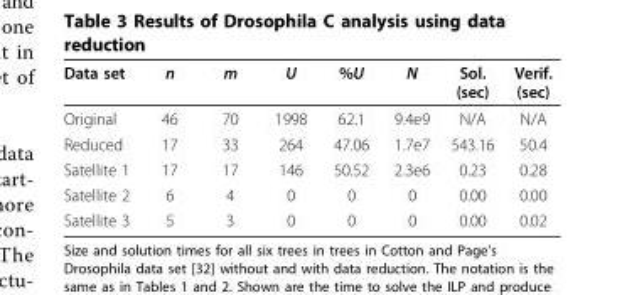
<table><thead><tr><td>Data set</td><td>n</td><td>m</td><td>U</td><td>%U</td><td>N</td><td>Sol. (sec)</td><td>Verif. (sec)</td></tr></thead><tbody><tr><td>Original</td><td>46</td><td>70</td><td>1998</td><td>62.1</td><td>9.4e9</td><td>N/A</td><td>N/A</td></tr><tr><td>Reduced</td><td>17</td><td>33</td><td>264</td><td>47.06</td><td>1.7e7</td><td>543.16</td><td>50.4</td></tr><tr><td>Satellite 1</td><td>17</td><td>17</td><td>146</td><td>50.52</td><td>2.3e6</td><td>0.23</td><td>0.28</td></tr><tr><td>Satellite 2</td><td>6</td><td>4</td><td>0</td><td>0</td><td>0</td><td>0.00</td><td>0.00</td></tr><tr><td>Satellite 3</td><td>5</td><td>3</td><td>0</td><td>0</td><td>0</td><td>0.00</td><td>0.02</td></tr></tbody></table>